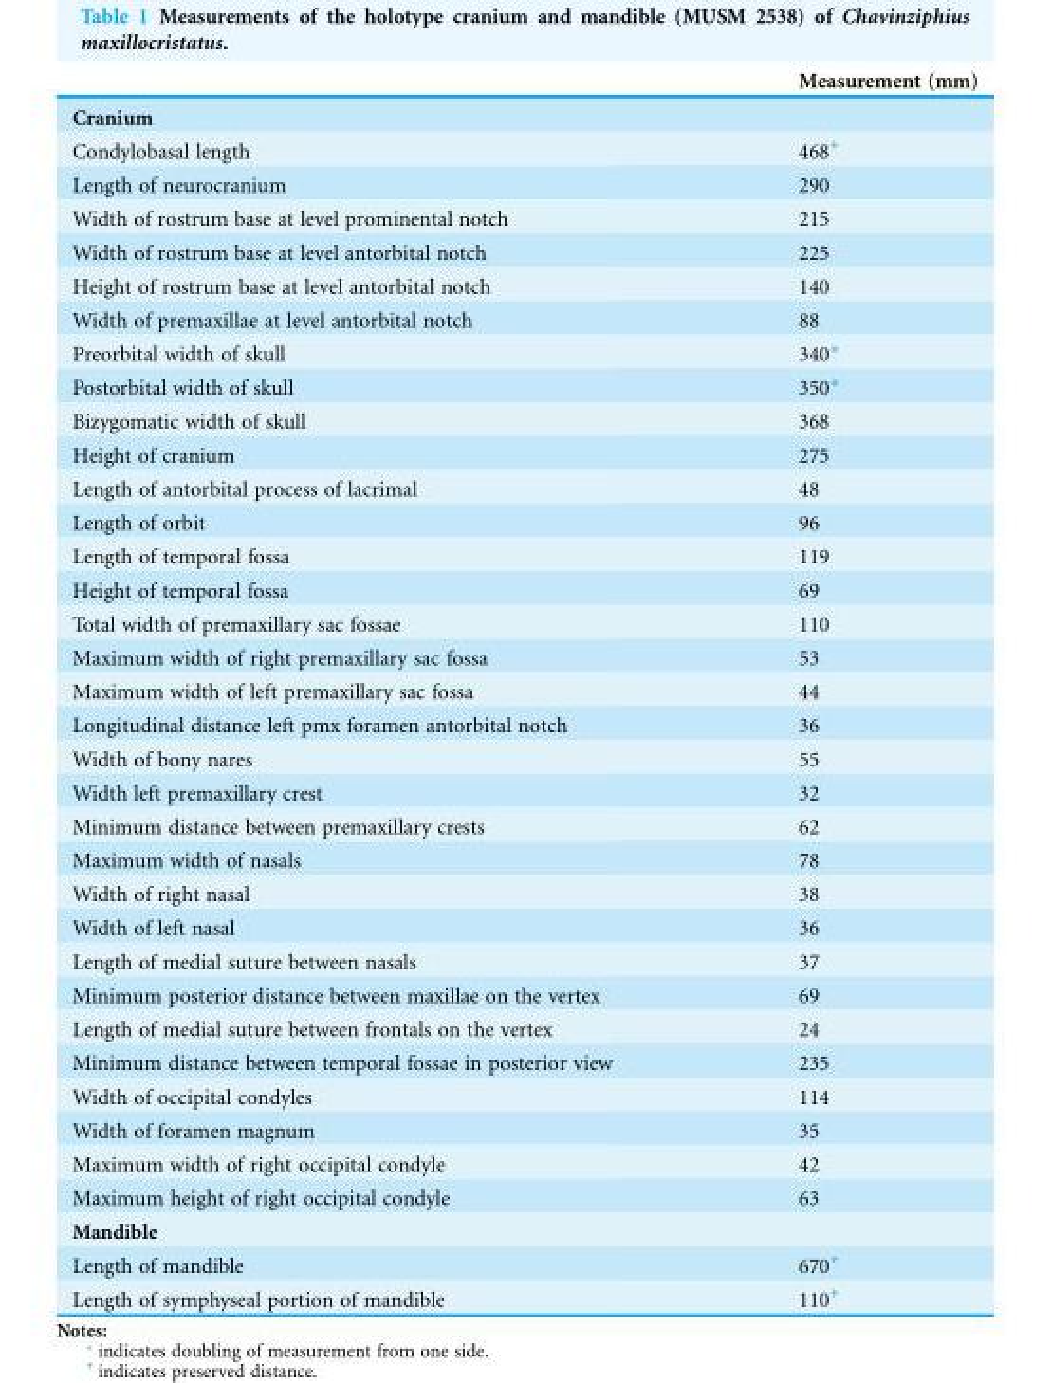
<table><thead><tr><td></td><td>Measurement (mm)</td></tr></thead><tbody><tr><td colspan="2">Cranium</td></tr><tr><td>Condylobasal length</td><td>468<sup>+</sup></td></tr><tr><td>Length of neurocranium</td><td>290</td></tr><tr><td>Width of rostrum base at level prominental notch</td><td>215</td></tr><tr><td>Width of rostrum base at level antorbital notch</td><td>225</td></tr><tr><td>Height of rostrum base at level antorbital notch</td><td>140</td></tr><tr><td>Width of premaxillae at level antorbital notch</td><td>88</td></tr><tr><td>Preorbital width of skull</td><td>340*</td></tr><tr><td>Postorbital width of skull</td><td>350*</td></tr><tr><td>Bizygomatic width of skull</td><td>368</td></tr><tr><td>Height of cranium</td><td>275</td></tr><tr><td>Length of antorbital process of lacrimal</td><td>48</td></tr><tr><td>Length of orbit</td><td>96</td></tr><tr><td>Length of temporal fossa</td><td>119</td></tr><tr><td>Height of temporal fossa</td><td>69</td></tr><tr><td>Total width of premaxillary sac fossae</td><td>110</td></tr><tr><td>Maximum width of right premaxillary sac fossa</td><td>53</td></tr><tr><td>Maximum width of left premaxillary sac fossa</td><td>44</td></tr><tr><td>Longitudinal distance left pmx foramen antorbital notch</td><td>36</td></tr><tr><td>Width of bony nares</td><td>55</td></tr><tr><td>Width left premaxillary crest</td><td>32</td></tr><tr><td>Minimum distance between premaxillary crests</td><td>62</td></tr><tr><td>Maximum width of nasals</td><td>78</td></tr><tr><td>Width of right nasal</td><td>38</td></tr><tr><td>Width of left nasal</td><td>36</td></tr><tr><td>Length of medial suture between nasals</td><td>37</td></tr><tr><td>Minimum posterior distance between maxillae on the vertex</td><td>69</td></tr><tr><td>Length of medial suture between frontals on the vertex</td><td>24</td></tr><tr><td>Minimum distance between temporal fossae in posterior view</td><td>235</td></tr><tr><td>Width of occipital condyles</td><td>114</td></tr><tr><td>Width of foramen magnum</td><td>35</td></tr><tr><td>Maximum width of right occipital condyle</td><td>42</td></tr><tr><td>Maximum height of right occipital condyle</td><td>63</td></tr><tr><td colspan="2">Mandible</td></tr><tr><td>Length of mandible</td><td>670<sup>+</sup></td></tr><tr><td>Length of symphyseal portion of mandible</td><td>110<sup>+</sup></td></tr></tbody></table>